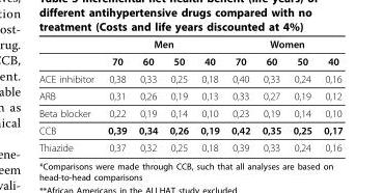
<table><thead><tr><td rowspan="2"></td><td colspan="4">Men</td><td colspan="4">Women</td></tr><tr><td>70</td><td>60</td><td>50</td><td>40</td><td>70</td><td>60</td><td>50</td><td>40</td></tr></thead><tbody><tr><td>ACE inhibitor</td><td>0,38</td><td>0,33</td><td>0,25</td><td>0,18</td><td>0,40</td><td>0,33</td><td>0,24</td><td>0,16</td></tr><tr><td>ARB</td><td>0,31</td><td>0,26</td><td>0,19</td><td>0,13</td><td>0,33</td><td>0,27</td><td>0,19</td><td>0,12</td></tr><tr><td>Beta blocker</td><td>0,22</td><td>0,19</td><td>0,14</td><td>0,10</td><td>0,23</td><td>0,19</td><td>0,14</td><td>0,10</td></tr><tr><td>CCB</td><td>0,39</td><td>0,34</td><td>0,26</td><td>0,19</td><td>0,42</td><td>0,35</td><td>0,25</td><td>0,17</td></tr><tr><td>Thiazide</td><td>0,37</td><td>0,32</td><td>0,25</td><td>0,18</td><td>0,39</td><td>0,33</td><td>0,24</td><td>0,16</td></tr></tbody></table>